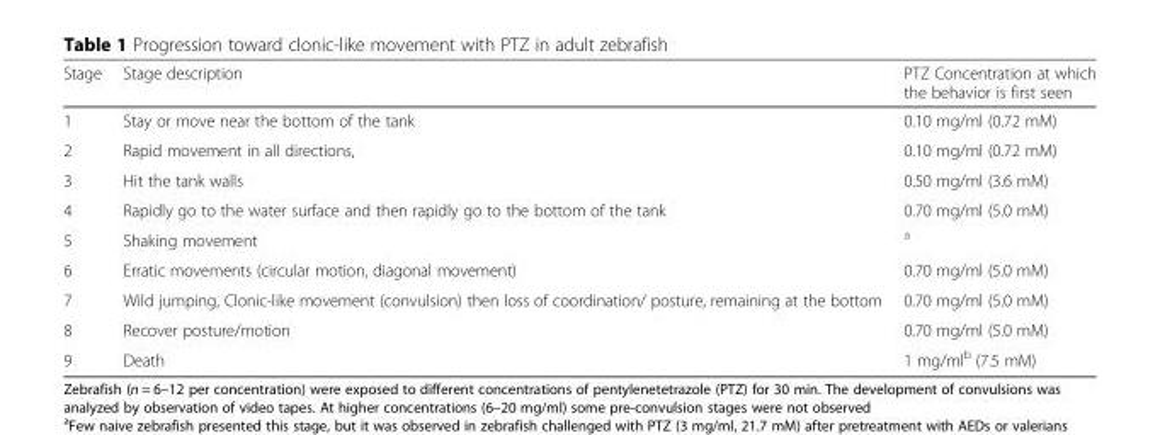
<table><thead><tr><td>Stage</td><td>Stage description</td><td>PTZ Concentration at which the behavior is first seen</td></tr></thead><tbody><tr><td>1</td><td>Stay or move near the bottom of the tank</td><td>0.10 mg/ml (0.72 mM)</td></tr><tr><td>2</td><td>Rapid movement in all directions,</td><td>0.10 mg/ml (0.72 mM)</td></tr><tr><td>3</td><td>Hit the tank walls</td><td>0.50 mg/ml (3.6 mM)</td></tr><tr><td>4</td><td>Rapidly go to the water surface and then rapidly go to the bottom of the tank</td><td>0.70 mg/ml (5.0 mM)</td></tr><tr><td>5</td><td>Shaking movement</td><td><sup>a</sup></td></tr><tr><td>6</td><td>Erratic movements (circular motion, diagonal movement)</td><td>0.70 mg/ml (5.0 mM)</td></tr><tr><td>7</td><td>Wild jumping, Clonic-like movement (convulsion) then loss of coordination/ posture, remaining at the bottom</td><td>0.70 mg/ml (5.0 mM)</td></tr><tr><td>8</td><td>Recover posture/motion</td><td>0.70 mg/ml (5.0 mM)</td></tr><tr><td>9</td><td>Death</td><td>1 mg/ml<sup>b</sup> (7.5 mM)</td></tr></tbody></table>